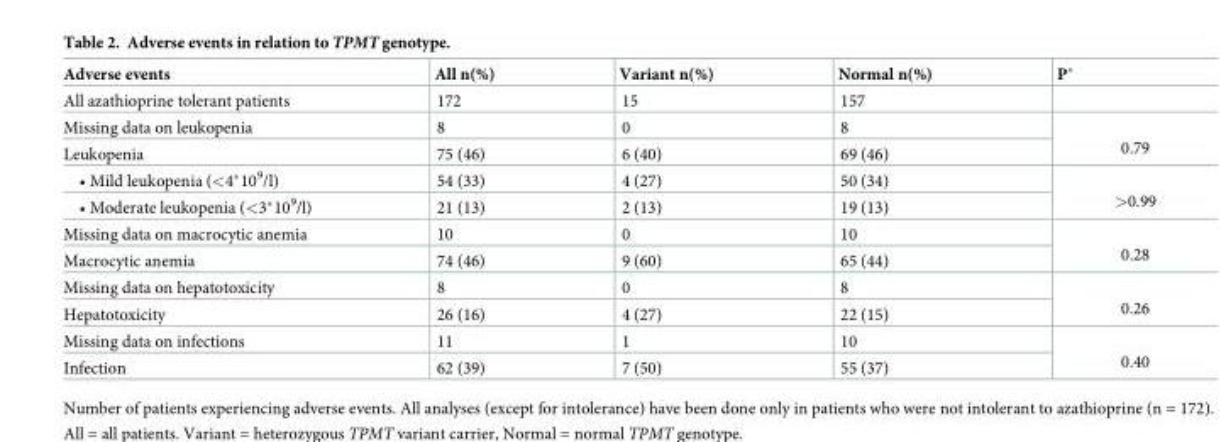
<table><thead><tr><td>Adverse events</td><td>All n(%)</td><td>Variant n(%)</td><td>Normal n(%)</td><td>P*</td></tr></thead><tbody><tr><td>All azathioprine tolerant patients</td><td>172</td><td>15</td><td>157</td><td></td></tr><tr><td>Missing data on leukopenia</td><td>8</td><td>0</td><td>8</td><td rowspan="2">0.79</td></tr><tr><td>Leukopenia</td><td>75 (46)</td><td>6 (40)</td><td>69 (46)</td></tr><tr><td>• Mild leukopenia (&lt;4*10<sup>9</sup>/l)</td><td>54 (33)</td><td>4 (27)</td><td>50 (34)</td><td rowspan="2">&gt;0.99</td></tr><tr><td>• Moderate leukopenia (&lt;3*10<sup>9</sup>/l)</td><td>21 (13)</td><td>2 (13)</td><td>19 (13)</td></tr><tr><td>Missing data on macrocytic anemia</td><td>10</td><td>0</td><td>10</td><td rowspan="2">0.28</td></tr><tr><td>Macrocytic anemia</td><td>74 (46)</td><td>9 (60)</td><td>65 (44)</td></tr><tr><td>Missing data on hepatotoxicity</td><td>8</td><td>0</td><td>8</td><td rowspan="2">0.26</td></tr><tr><td>Hepatotoxicity</td><td>26 (16)</td><td>4 (27)</td><td>22 (15)</td></tr><tr><td>Missing data on infections</td><td>11</td><td>1</td><td>10</td><td rowspan="2">0.40</td></tr><tr><td>Infection</td><td>62 (39)</td><td>7 (50)</td><td>55 (37)</td></tr></tbody></table>